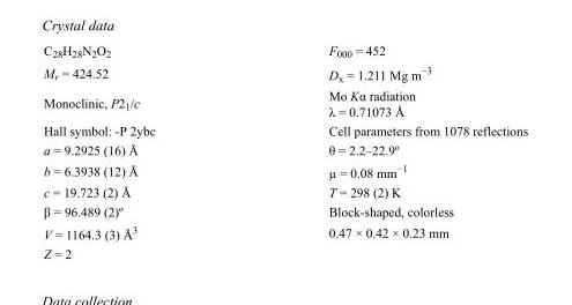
<table><tbody><tr><td>C<sub>28</sub>H<sub>28</sub>N<sub>2</sub>O<sub>2</sub></td><td>F<sub>000</sub> = 452</td></tr><tr><td>M<sub>r</sub> = 424.52</td><td>D<sub>x</sub> = 1.211 Mg m<sup>−3</sup></td></tr><tr><td>Monoclinic, P2<sub>1</sub>/c</td><td>Mo Kα radiation λ = 0.71073 Å</td></tr><tr><td>Hall symbol: -P 2ybc</td><td>Cell parameters from 1078 reflections</td></tr><tr><td>a = 9.2925 (16) Å</td><td>θ = 2.2–22.9º</td></tr><tr><td>b = 6.3938 (12) Å</td><td>µ = 0.08 mm<sup>−1</sup></td></tr><tr><td>c = 19.723 (2) Å</td><td>T = 298 (2) K</td></tr><tr><td>β = 96.489 (2)º</td><td>Block-shaped, colorless</td></tr><tr><td>V = 1164.3 (3) Å<sup>3</sup></td><td>0.47 × 0.42 × 0.23 mm</td></tr><tr><td>Z = 2</td><td></td></tr></tbody></table>